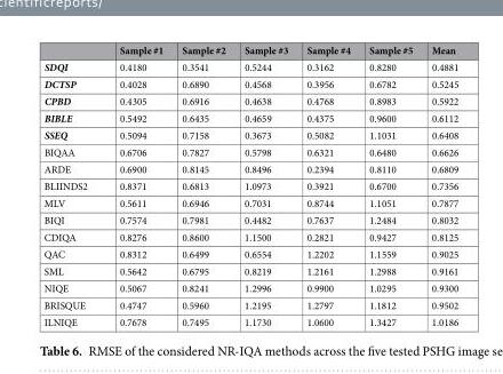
<table><thead><tr><td></td><td>Sample #1</td><td>Sample #2</td><td>Sample #3</td><td>Sample #4</td><td>Sample #5</td><td>Mean</td></tr></thead><tbody><tr><td>SDQI</td><td>0.4180</td><td>0.3541</td><td>0.5244</td><td>0.3162</td><td>0.8280</td><td>0.4881</td></tr><tr><td>DCTSP</td><td>0.4028</td><td>0.6890</td><td>0.4568</td><td>0.3956</td><td>0.6782</td><td>0.5245</td></tr><tr><td>CPBD</td><td>0.4305</td><td>0.6916</td><td>0.4638</td><td>0.4768</td><td>0.8983</td><td>0.5922</td></tr><tr><td>BIBLE</td><td>0.5492</td><td>0.6435</td><td>0.4659</td><td>0.4375</td><td>0.9600</td><td>0.6112</td></tr><tr><td>SSEQ</td><td>0.5094</td><td>0.7158</td><td>0.3673</td><td>0.5082</td><td>1.1031</td><td>0.6408</td></tr><tr><td>BIQAA</td><td>0.6706</td><td>0.7827</td><td>0.5798</td><td>0.6321</td><td>0.6480</td><td>0.6626</td></tr><tr><td>ARDE</td><td>0.6900</td><td>0.8145</td><td>0.8496</td><td>0.2394</td><td>0.8110</td><td>0.6809</td></tr><tr><td>BLIINDS2</td><td>0.8371</td><td>0.6813</td><td>1.0973</td><td>0.3921</td><td>0.6700</td><td>0.7356</td></tr><tr><td>MLV</td><td>0.5611</td><td>0.6946</td><td>0.7031</td><td>0.8744</td><td>1.1051</td><td>0.7877</td></tr><tr><td>BIQI</td><td>0.7574</td><td>0.7981</td><td>0.4482</td><td>0.7637</td><td>1.2484</td><td>0.8032</td></tr><tr><td>CDIQA</td><td>0.8276</td><td>0.8600</td><td>1.1500</td><td>0.2821</td><td>0.9427</td><td>0.8125</td></tr><tr><td>QAC</td><td>0.8312</td><td>0.6499</td><td>0.6554</td><td>1.2202</td><td>1.1559</td><td>0.9025</td></tr><tr><td>SML</td><td>0.5642</td><td>0.6795</td><td>0.8219</td><td>1.2161</td><td>1.2988</td><td>0.9161</td></tr><tr><td>NIQE</td><td>0.5067</td><td>0.8241</td><td>1.2996</td><td>0.9900</td><td>1.0295</td><td>0.9300</td></tr><tr><td>BRISQUE</td><td>0.4747</td><td>0.5960</td><td>1.2195</td><td>1.2797</td><td>1.1812</td><td>0.9502</td></tr><tr><td>ILNIQE</td><td>0.7678</td><td>0.7495</td><td>1.1730</td><td>1.0600</td><td>1.3427</td><td>1.0186</td></tr></tbody></table>